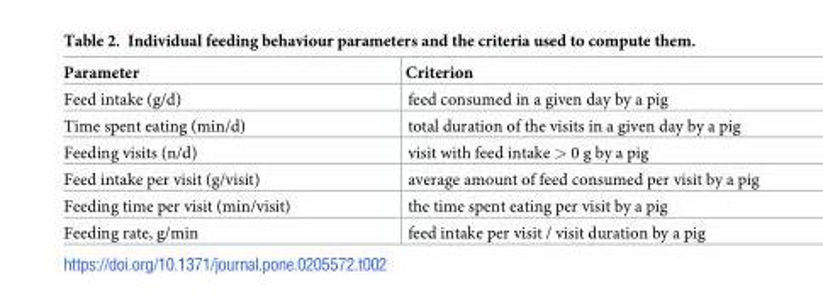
<table><thead><tr><td>Parameter</td><td>Criterion</td></tr></thead><tbody><tr><td>Feed intake (g/d)</td><td>feed consumed in a given day by a pig</td></tr><tr><td>Time spent eating (min/d)</td><td>total duration of the visits in a given day by a pig</td></tr><tr><td>Feeding visits (n/d)</td><td>visit with feed intake &gt; 0 g by a pig</td></tr><tr><td>Feed intake per visit (g/visit)</td><td>average amount of feed consumed per visit by a pig</td></tr><tr><td>Feeding time per visit (min/visit)</td><td>the time spent eating per visit by a pig</td></tr><tr><td>Feeding rate, g/min</td><td>feed intake per visit / visit duration by a pig</td></tr></tbody></table>